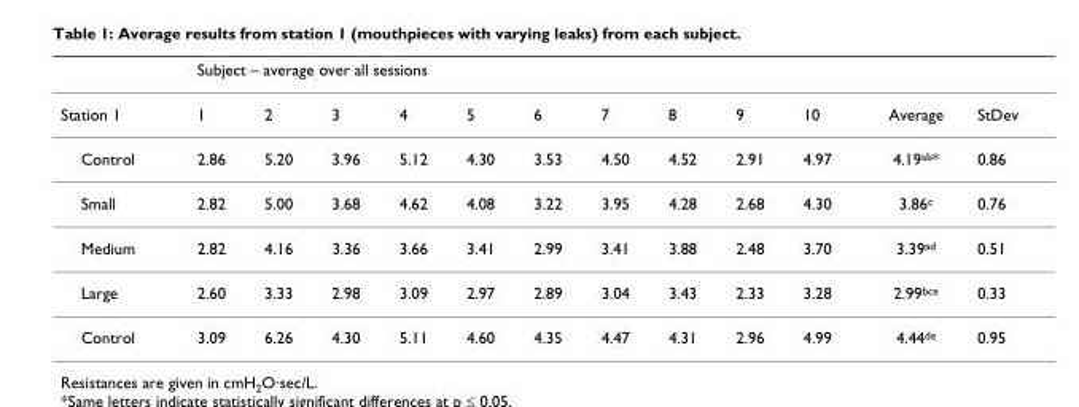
<table><thead><tr><td rowspan="2">Station 1</td><td colspan="10">Subject – average over all sessions</td><td rowspan="2">Average</td><td rowspan="2">StDev</td></tr><tr><td>1</td><td>2</td><td>3</td><td>4</td><td>5</td><td>6</td><td>7</td><td>8</td><td>9</td><td>10</td></tr></thead><tbody><tr><td>Control</td><td>2.86</td><td>5.20</td><td>3.96</td><td>5.12</td><td>4.30</td><td>3.53</td><td>4.50</td><td>4.52</td><td>2.91</td><td>4.97</td><td>4.19ab*</td><td>0.86</td></tr><tr><td>Small</td><td>2.82</td><td>5.00</td><td>3.68</td><td>4.62</td><td>4.08</td><td>3.22</td><td>3.95</td><td>4.28</td><td>2.68</td><td>4.30</td><td>3.86c</td><td>0.76</td></tr><tr><td>Medium</td><td>2.82</td><td>4.16</td><td>3.36</td><td>3.66</td><td>3.41</td><td>2.99</td><td>3.41</td><td>3.88</td><td>2.48</td><td>3.70</td><td>3.39ad</td><td>0.51</td></tr><tr><td>Large</td><td>2.60</td><td>3.33</td><td>2.98</td><td>3.09</td><td>2.97</td><td>2.89</td><td>3.04</td><td>3.43</td><td>2.33</td><td>3.28</td><td>2.99bce</td><td>0.33</td></tr><tr><td>Control</td><td>3.09</td><td>6.26</td><td>4.30</td><td>5.11</td><td>4.60</td><td>4.35</td><td>4.47</td><td>4.31</td><td>2.96</td><td>4.99</td><td>4.44de</td><td>0.95</td></tr></tbody></table>